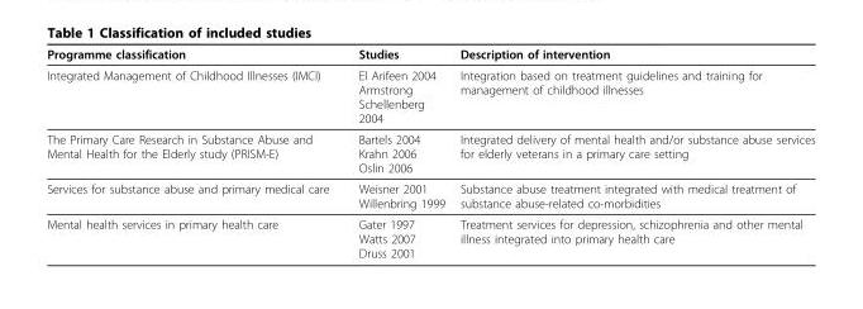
<table><thead><tr><td>Programme classification</td><td>Studies</td><td>Description of intervention</td></tr></thead><tbody><tr><td>Integrated Management of Childhood Illnesses (IMCI)</td><td>El Arifeen 2004 Armstrong Schellenberg 2004</td><td>Integration based on treatment guidelines and training for management of childhood illnesses</td></tr><tr><td>The Primary Care Research in Substance Abuse and Mental Health for the Elderly study (PRISM-E)</td><td>Bartels 2004 Krahn 2006 Oslin 2006</td><td>Integrated delivery of mental health and/or substance abuse services for elderly veterans in a primary care setting</td></tr><tr><td>Services for substance abuse and primary medical care</td><td>Weisner 2001 Willenbring 1999</td><td>Substance abuse treatment integrated with medical treatment of substance abuse-related co-morbidities</td></tr><tr><td>Mental health services in primary health care</td><td>Gater 1997 Watts 2007 Druss 2001</td><td>Treatment services for depression, schizophrenia and other mental illness integrated into primary health care</td></tr></tbody></table>